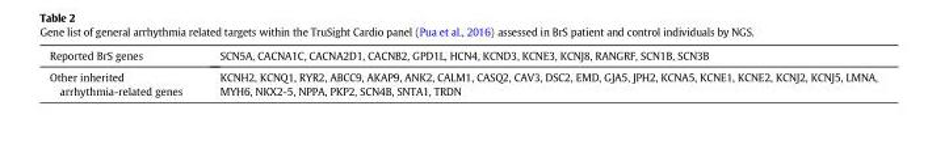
<table><thead><tr><td>Reported BrS genes</td><td>SCN5A, CACNA1C, CACNA2D1, CACNB2, GPD1L, HCN4, KCND3, KCNE3, KCNJ8, RANGRF, SCN1B, SCN3B</td></tr></thead><tbody><tr><td>Other inherited arrhythmia-related genes</td><td>KCNH2, KCNQ1, RYR2, ABCC9, AKAP9, ANK2, CALM1, CASQ2, CAV3, DSC2, EMD, GJA5, JPH2, KCNA5, KCNE1, KCNE2, KCNJ2, KCNJ5, LMNA, MYH6, NKX2-5, NPPA, PKP2, SCN4B, SNTA1, TRDN</td></tr></tbody></table>